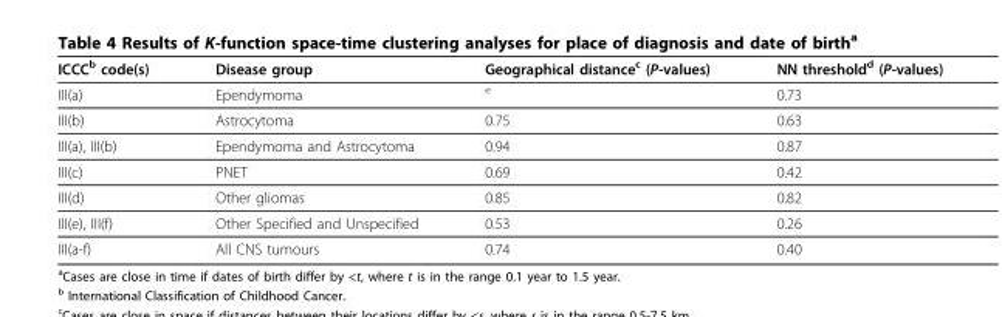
<table><thead><tr><td>ICCC<sup>b</sup> code(s)</td><td>Disease group</td><td>Geographical distance<sup>c</sup> (P-values)</td><td>NN threshold<sup>d</sup> (P-values)</td></tr></thead><tbody><tr><td>III(a)</td><td>Ependymoma</td><td><sup>e</sup></td><td>0.73</td></tr><tr><td>III(b)</td><td>Astrocytoma</td><td>0.75</td><td>0.63</td></tr><tr><td>III(a), III(b)</td><td>Ependymoma and Astrocytoma</td><td>0.94</td><td>0.87</td></tr><tr><td>III(c)</td><td>PNET</td><td>0.69</td><td>0.42</td></tr><tr><td>III(d)</td><td>Other gliomas</td><td>0.85</td><td>0.82</td></tr><tr><td>III(e), III(f)</td><td>Other Specified and Unspecified</td><td>0.53</td><td>0.26</td></tr><tr><td>III(a-f)</td><td>All CNS tumours</td><td>0.74</td><td>0.40</td></tr></tbody></table>